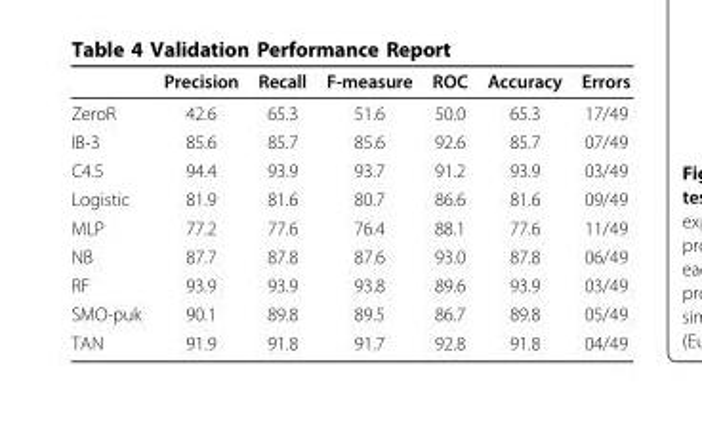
<table><thead><tr><td></td><td>Precision</td><td>Recall</td><td>F-measure</td><td>ROC</td><td>Accuracy</td><td>Errors</td></tr></thead><tbody><tr><td>ZeroR</td><td>42.6</td><td>65.3</td><td>51.6</td><td>50.0</td><td>65.3</td><td>17/49</td></tr><tr><td>IB-3</td><td>85.6</td><td>85.7</td><td>85.6</td><td>92.6</td><td>85.7</td><td>07/49</td></tr><tr><td>C4.5</td><td>94.4</td><td>93.9</td><td>93.7</td><td>91.2</td><td>93.9</td><td>03/49</td></tr><tr><td>Logistic</td><td>81.9</td><td>81.6</td><td>80.7</td><td>86.6</td><td>81.6</td><td>09/49</td></tr><tr><td>MLP</td><td>77.2</td><td>77.6</td><td>76.4</td><td>88.1</td><td>77.6</td><td>11/49</td></tr><tr><td>NB</td><td>87.7</td><td>87.8</td><td>87.6</td><td>93.0</td><td>87.8</td><td>06/49</td></tr><tr><td>RF</td><td>93.9</td><td>93.9</td><td>93.8</td><td>89.6</td><td>93.9</td><td>03/49</td></tr><tr><td>SMO-puk</td><td>90.1</td><td>89.8</td><td>89.5</td><td>86.7</td><td>89.8</td><td>05/49</td></tr><tr><td>TAN</td><td>91.9</td><td>91.8</td><td>91.7</td><td>92.8</td><td>91.8</td><td>04/49</td></tr></tbody></table>